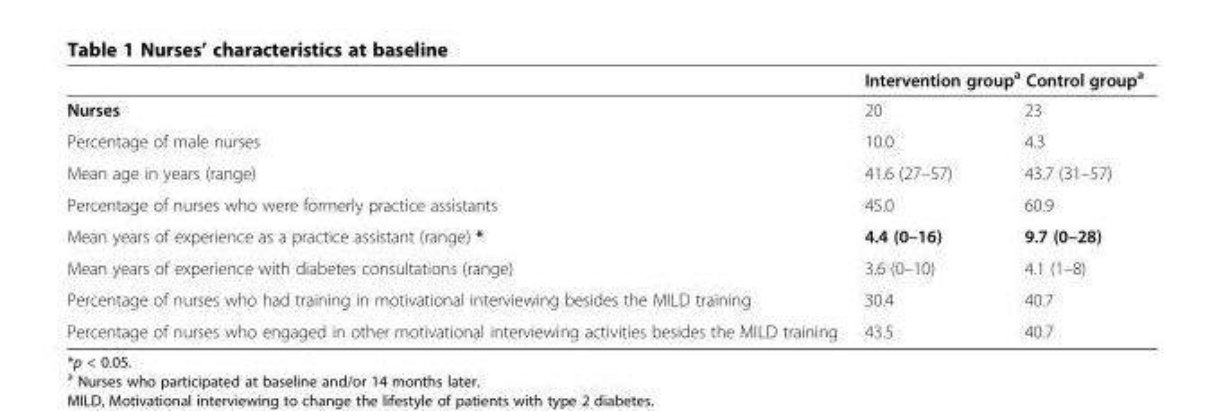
<table><thead><tr><td rowspan="2">Nurses</td><td colspan="2">Intervention group<sup>a</sup> Control group<sup>a</sup></td></tr><tr><td>20</td><td>23</td></tr></thead><tbody><tr><td>Percentage of male nurses</td><td>10.0</td><td>4.3</td></tr><tr><td>Mean age in years (range)</td><td>41.6 (27–57)</td><td>43.7 (31–57)</td></tr><tr><td>Percentage of nurses who were formerly practice assistants</td><td>45.0</td><td>60.9</td></tr><tr><td>Mean years of experience as a practice assistant (range) *</td><td>4.4 (0–16)</td><td>9.7 (0–28)</td></tr><tr><td>Mean years of experience with diabetes consultations (range)</td><td>3.6 (0–10)</td><td>4.1 (1–8)</td></tr><tr><td>Percentage of nurses who had training in motivational interviewing besides the MILD training</td><td>30.4</td><td>40.7</td></tr><tr><td>Percentage of nurses who engaged in other motivational interviewing activities besides the MILD training</td><td>43.5</td><td>40.7</td></tr></tbody></table>